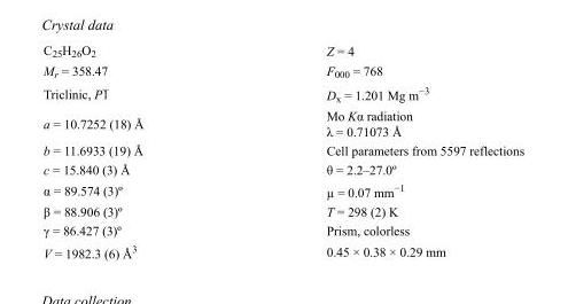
<table><tbody><tr><td>C<sub>25</sub>H<sub>26</sub>O<sub>2</sub></td><td>Z = 4</td></tr><tr><td>M<sub>r</sub> = 358.47</td><td>F000 = 768</td></tr><tr><td>Triclinic, P1</td><td>D<sub>x</sub> = 1.201 Mg m<sup>−3</sup></td></tr><tr><td>a = 10.7252 (18) Å</td><td>Mo Kα radiation λ = 0.71073 Å</td></tr><tr><td>b = 11.6933 (19) Å</td><td>Cell parameters from 5597 reflections</td></tr><tr><td>c = 15.840 (3) Å</td><td>θ = 2.2–27.0º</td></tr><tr><td>α = 89.574 (3)º</td><td>µ = 0.07 mm<sup>−1</sup></td></tr><tr><td>β = 88.906 (3)º</td><td>T = 298 (2) K</td></tr><tr><td>γ = 86.427 (3)º</td><td>Prism, colorless</td></tr><tr><td>V = 1982.3 (6) Å<sup>3</sup></td><td>0.45 × 0.38 × 0.29 mm</td></tr></tbody></table>